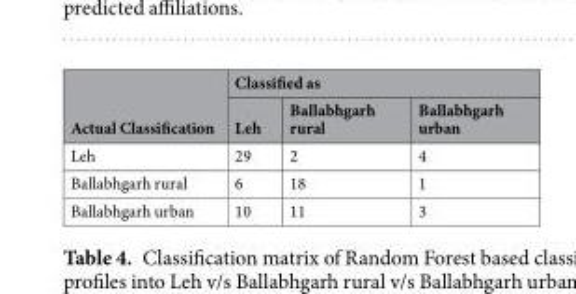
<table><thead><tr><td rowspan="2">Actual Classification</td><td colspan="3">Classified as</td></tr><tr><td>Leh</td><td>Ballabhgarh rural</td><td>Ballabhgarh urban</td></tr></thead><tbody><tr><td>Leh</td><td>29</td><td>2</td><td>4</td></tr><tr><td>Ballabhgarh rural</td><td>6</td><td>18</td><td>1</td></tr><tr><td>Ballabhgarh urban</td><td>10</td><td>11</td><td>3</td></tr></tbody></table>